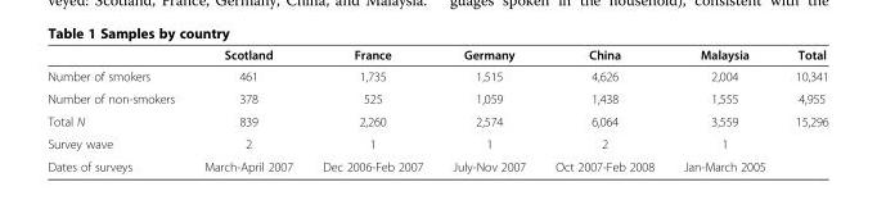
<table><thead><tr><td></td><td>Scotland</td><td>France</td><td>Germany</td><td>China</td><td>Malaysia</td><td>Total</td></tr></thead><tbody><tr><td>Number of smokers</td><td>461</td><td>1,735</td><td>1,515</td><td>4,626</td><td>2,004</td><td>10,341</td></tr><tr><td>Number of non-smokers</td><td>378</td><td>525</td><td>1,059</td><td>1,438</td><td>1,555</td><td>4,955</td></tr><tr><td>Total N</td><td>839</td><td>2,260</td><td>2,574</td><td>6,064</td><td>3,559</td><td>15,296</td></tr><tr><td>Survey wave</td><td>2</td><td>1</td><td>1</td><td>2</td><td>1</td><td></td></tr><tr><td>Dates of surveys</td><td>March-April 2007</td><td>Dec 2006-Feb 2007</td><td>July-Nov 2007</td><td>Oct 2007-Feb 2008</td><td>Jan-March 2005</td><td></td></tr></tbody></table>